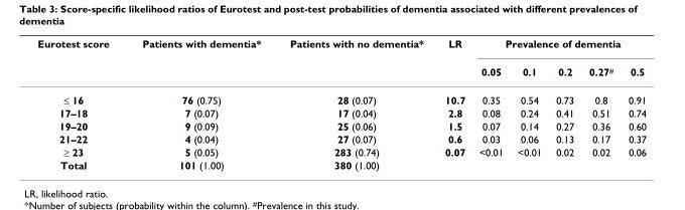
<table><thead><tr><td rowspan="2">Eurotest score</td><td rowspan="2">Patients with dementia*</td><td rowspan="2">Patients with no dementia*</td><td rowspan="2">LR</td><td colspan="5">Prevalence of dementia</td></tr><tr><td>0.05</td><td>0.1</td><td>0.2</td><td>0.27#</td><td>0.5</td></tr></thead><tbody><tr><td>≤ 16</td><td>76 (0.75)</td><td>28 (0.07)</td><td>10.7</td><td>0.35</td><td>0.54</td><td>0.73</td><td>0.8</td><td>0.91</td></tr><tr><td>17–18</td><td>7 (0.07)</td><td>17 (0.04)</td><td>2.8</td><td>0.08</td><td>0.24</td><td>0.41</td><td>0.51</td><td>0.74</td></tr><tr><td>19–20</td><td>9 (0.09)</td><td>25 (0.06)</td><td>1.5</td><td>0.07</td><td>0.14</td><td>0.27</td><td>0.36</td><td>0.60</td></tr><tr><td>21–22</td><td>4 (0.04)</td><td>27 (0.07)</td><td>0.6</td><td>0.03</td><td>0.06</td><td>0.13</td><td>0.17</td><td>0.37</td></tr><tr><td>≥ 23</td><td>5 (0.05)</td><td>283 (0.74)</td><td>0.07</td><td>&lt;0.01</td><td>&lt;0.01</td><td>0.02</td><td>0.02</td><td>0.06</td></tr><tr><td>Total</td><td>101 (1.00)</td><td>380 (1.00)</td><td></td><td></td><td></td><td></td><td></td><td></td></tr></tbody></table>